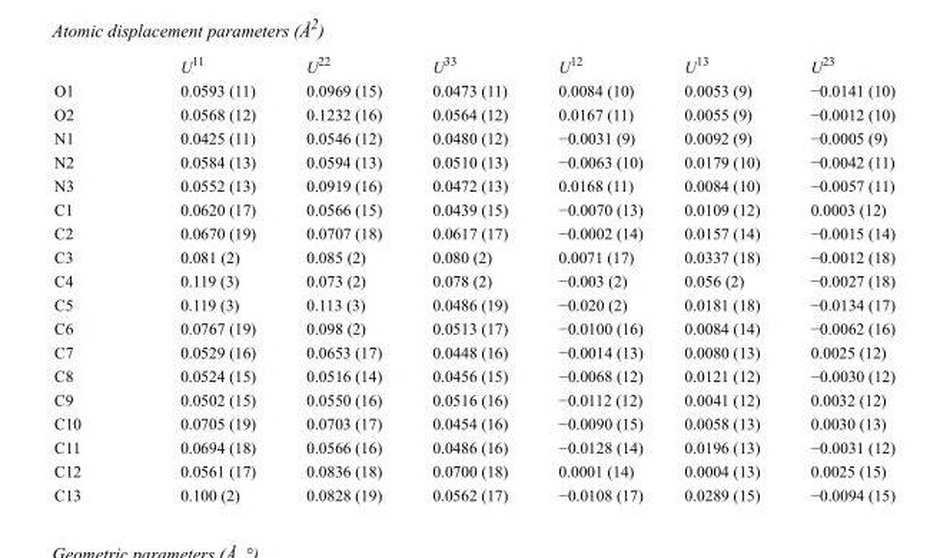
<table><thead><tr><td></td><td>U<sup>11</sup></td><td>U<sup>22</sup></td><td>U<sup>33</sup></td><td>U<sup>12</sup></td><td>U<sup>13</sup></td><td>U<sup>23</sup></td></tr></thead><tbody><tr><td>O1</td><td>0.0593 (11)</td><td>0.0969 (15)</td><td>0.0473 (11)</td><td>0.0084 (10)</td><td>0.0053 (9)</td><td>−0.0141 (10)</td></tr><tr><td>O2</td><td>0.0568 (12)</td><td>0.1232 (16)</td><td>0.0564 (12)</td><td>0.0167 (11)</td><td>0.0055 (9)</td><td>−0.0012 (10)</td></tr><tr><td>N1</td><td>0.0425 (11)</td><td>0.0546 (12)</td><td>0.0480 (12)</td><td>−0.0031 (9)</td><td>0.0092 (9)</td><td>−0.0005 (9)</td></tr><tr><td>N2</td><td>0.0584 (13)</td><td>0.0594 (13)</td><td>0.0510 (13)</td><td>−0.0063 (10)</td><td>0.0179 (10)</td><td>−0.0042 (11)</td></tr><tr><td>N3</td><td>0.0552 (13)</td><td>0.0919 (16)</td><td>0.0472 (13)</td><td>0.0168 (11)</td><td>0.0084 (10)</td><td>−0.0057 (11)</td></tr><tr><td>C1</td><td>0.0620 (17)</td><td>0.0566 (15)</td><td>0.0439 (15)</td><td>−0.0070 (13)</td><td>0.0109 (12)</td><td>0.0003 (12)</td></tr><tr><td>C2</td><td>0.0670 (19)</td><td>0.0707 (18)</td><td>0.0617 (17)</td><td>−0.0002 (14)</td><td>0.0157 (14)</td><td>−0.0015 (14)</td></tr><tr><td>C3</td><td>0.081 (2)</td><td>0.085 (2)</td><td>0.080 (2)</td><td>0.0071 (17)</td><td>0.0337 (18)</td><td>−0.0012 (18)</td></tr><tr><td>C4</td><td>0.119 (3)</td><td>0.073 (2)</td><td>0.078 (2)</td><td>−0.003 (2)</td><td>0.056 (2)</td><td>−0.0027 (18)</td></tr><tr><td>C5</td><td>0.119 (3)</td><td>0.113 (3)</td><td>0.0486 (19)</td><td>−0.020 (2)</td><td>0.0181 (18)</td><td>−0.0134 (17)</td></tr><tr><td>C6</td><td>0.0767 (19)</td><td>0.098 (2)</td><td>0.0513 (17)</td><td>−0.0100 (16)</td><td>0.0084 (14)</td><td>−0.0062 (16)</td></tr><tr><td>C7</td><td>0.0529 (16)</td><td>0.0653 (17)</td><td>0.0448 (16)</td><td>−0.0014 (13)</td><td>0.0080 (13)</td><td>0.0025 (12)</td></tr><tr><td>C8</td><td>0.0524 (15)</td><td>0.0516 (14)</td><td>0.0456 (15)</td><td>−0.0068 (12)</td><td>0.0121 (12)</td><td>−0.0030 (12)</td></tr><tr><td>C9</td><td>0.0502 (15)</td><td>0.0550 (16)</td><td>0.0516 (16)</td><td>−0.0112 (12)</td><td>0.0041 (12)</td><td>0.0032 (12)</td></tr><tr><td>C10</td><td>0.0705 (19)</td><td>0.0703 (17)</td><td>0.0454 (16)</td><td>−0.0090 (15)</td><td>0.0058 (13)</td><td>0.0030 (13)</td></tr><tr><td>C11</td><td>0.0694 (18)</td><td>0.0566 (16)</td><td>0.0486 (16)</td><td>−0.0128 (14)</td><td>0.0196 (13)</td><td>−0.0031 (12)</td></tr><tr><td>C12</td><td>0.0561 (17)</td><td>0.0836 (18)</td><td>0.0700 (18)</td><td>0.0001 (14)</td><td>0.0004 (13)</td><td>0.0025 (15)</td></tr><tr><td>C13</td><td>0.100 (2)</td><td>0.0828 (19)</td><td>0.0562 (17)</td><td>−0.0108 (17)</td><td>0.0289 (15)</td><td>−0.0094 (15)</td></tr></tbody></table>